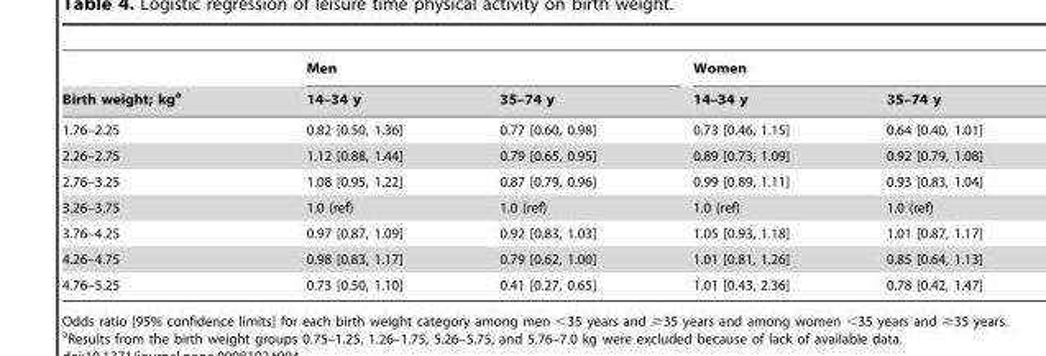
<table><thead><tr><td rowspan="2">Birth weight; kg<sup>a</sup></td><td colspan="2">Men</td><td colspan="2">Women</td></tr><tr><td>14–34 y</td><td>35–74 y</td><td>14–34 y</td><td>35–74 y</td></tr></thead><tbody><tr><td>1.76–2.25</td><td>0.82 [0.50, 1.36]</td><td>0.77 [0.60, 0.98]</td><td>0.73 [0.46, 1.15]</td><td>0.64 [0.40, 1.01]</td></tr><tr><td>2.26–2.75</td><td>1.12 [0.88, 1.44]</td><td>0.79 [0.65, 0.95]</td><td>0.89 [0.73, 1.09]</td><td>0.92 [0.79, 1.08]</td></tr><tr><td>2.76–3.25</td><td>1.08 [0.95, 1.22]</td><td>0.87 [0.79, 0.96]</td><td>0.99 [0.89, 1.11]</td><td>0.93 [0.83, 1.04]</td></tr><tr><td>3.26–3.75</td><td>1.0 (ref)</td><td>1.0 (ref)</td><td>1.0 (ref)</td><td>1.0 (ref)</td></tr><tr><td>3.76–4.25</td><td>0.97 [0.87, 1.09]</td><td>0.92 [0.83, 1.03]</td><td>1.05 [0.93, 1.18]</td><td>1.01 [0.87, 1.17]</td></tr><tr><td>4.26–4.75</td><td>0.98 [0.83, 1.17]</td><td>0.79 [0.62, 1.00]</td><td>1.01 [0.81, 1.26]</td><td>0.85 [0.64, 1.13]</td></tr><tr><td>4.76–5.25</td><td>0.73 [0.50, 1.10]</td><td>0.41 [0.27, 0.65]</td><td>1.01 [0.43, 2.36]</td><td>0.78 [0.42, 1.47]</td></tr></tbody></table>